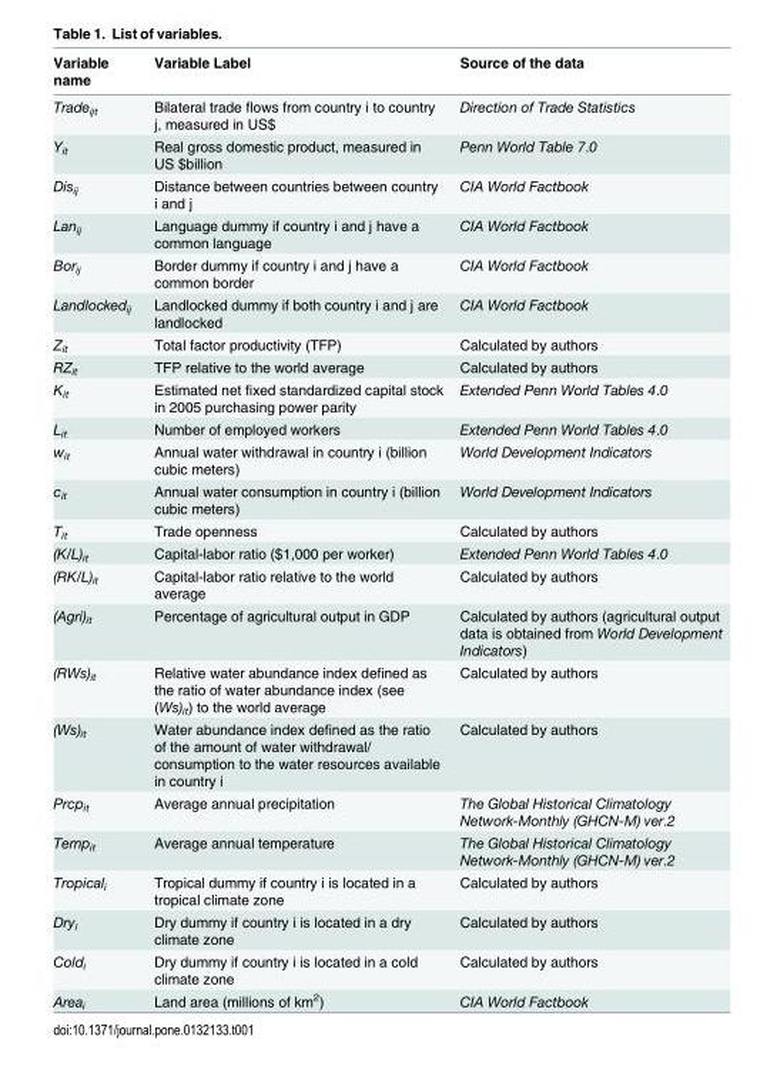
<table><thead><tr><td>Variable name</td><td>Variable Label</td><td>Source of the data</td></tr></thead><tbody><tr><td>Trade<sub>ijt</sub></td><td>Bilateral trade flows from country i to country j, measured in US$</td><td>Direction of Trade Statistics</td></tr><tr><td>Y<sub>it</sub></td><td>Real gross domestic product, measured in US $billion</td><td>Penn World Table 7.0</td></tr><tr><td>Dis<sub>ij</sub></td><td>Distance between countries between country i and j</td><td>CIA World Factbook</td></tr><tr><td>Lan<sub>ij</sub></td><td>Language dummy if country i and j have a common language</td><td>CIA World Factbook</td></tr><tr><td>Bor<sub>ij</sub></td><td>Border dummy if country i and j have a common border</td><td>CIA World Factbook</td></tr><tr><td>Landlocked<sub>ij</sub></td><td>Landlocked dummy if both country i and j are landlocked</td><td>CIA World Factbook</td></tr><tr><td>Z<sub>it</sub></td><td>Total factor productivity (TFP)</td><td>Calculated by authors</td></tr><tr><td>RZ<sub>it</sub></td><td>TFP relative to the world average</td><td>Calculated by authors</td></tr><tr><td>K<sub>it</sub></td><td>Estimated net fixed standardized capital stock in 2005 purchasing power parity</td><td>Extended Penn World Tables 4.0</td></tr><tr><td>L<sub>it</sub></td><td>Number of employed workers</td><td>Extended Penn World Tables 4.0</td></tr><tr><td>w<sub>it</sub></td><td>Annual water withdrawal in country i (billion cubic meters)</td><td>World Development Indicators</td></tr><tr><td>c<sub>it</sub></td><td>Annual water consumption in country i (billion cubic meters)</td><td>World Development Indicators</td></tr><tr><td>T<sub>it</sub></td><td>Trade openness</td><td>Calculated by authors</td></tr><tr><td>(K/L)<sub>it</sub></td><td>Capital-labor ratio ($1,000 per worker)</td><td>Extended Penn World Tables 4.0</td></tr><tr><td>(RK/L)<sub>it</sub></td><td>Capital-labor ratio relative to the world average</td><td>Calculated by authors</td></tr><tr><td>(Agri)<sub>it</sub></td><td>Percentage of agricultural output in GDP</td><td>Calculated by authors (agricultural output data is obtained from World Development Indicators)</td></tr><tr><td>(RWs)<sub>it</sub></td><td>Relative water abundance index defined as the ratio of water abundance index (see (Ws)<sub>it</sub>) to the world average</td><td>Calculated by authors</td></tr><tr><td>(Ws)<sub>it</sub></td><td>Water abundance index defined as the ratio of the amount of water withdrawal/ consumption to the water resources available in country i</td><td>Calculated by authors</td></tr><tr><td>Prcp<sub>it</sub></td><td>Average annual precipitation</td><td>The Global Historical Climatology Network-Monthly (GHCN-M) ver.2</td></tr><tr><td>Temp<sub>it</sub></td><td>Average annual temperature</td><td>The Global Historical Climatology Network-Monthly (GHCN-M) ver.2</td></tr><tr><td>Tropical<sub>i</sub></td><td>Tropical dummy if country i is located in a tropical climate zone</td><td>Calculated by authors</td></tr><tr><td>Dry<sub>i</sub></td><td>Dry dummy if country i is located in a dry climate zone</td><td>Calculated by authors</td></tr><tr><td>Cold<sub>i</sub></td><td>Dry dummy if country i is located in a cold climate zone</td><td>Calculated by authors</td></tr><tr><td>Area<sub>i</sub></td><td>Land area (millions of km<sup>2</sup>)</td><td>CIA World Factbook</td></tr></tbody></table>